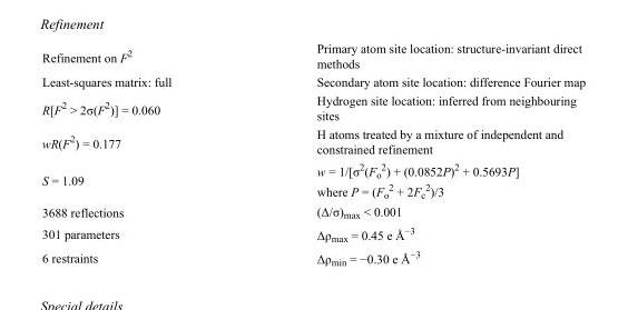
<table><tbody><tr><td>Refinement on F<sup>2</sup></td><td>Primary atom site location: structure-invariant direct methods</td></tr><tr><td>Least-squares matrix: full</td><td>Secondary atom site location: difference Fourier map</td></tr><tr><td>R[F<sup>2</sup> &gt; 2σ(F<sup>2</sup>)] = 0.060</td><td>Hydrogen site location: inferred from neighbouring sites</td></tr><tr><td>wR(F<sup>2</sup>) = 0.177</td><td>H atoms treated by a mixture of independent and constrained refinement</td></tr><tr><td>S = 1.09</td><td>w = 1/[σ<sup>2</sup>(F<sub>o</sub> <sup>2</sup>) + (0.0852P)<sup>2</sup> + 0.5693P] where P = (F<sub>o</sub> <sup>2</sup> + 2F<sub>c</sub> <sup>2</sup>)/3</td></tr><tr><td>3688 reflections</td><td>(Δ/σ)<sub>max</sub> &lt; 0.001</td></tr><tr><td>301 parameters</td><td>Δρ<sub>max</sub> = 0.45 e Å<sup>−3</sup></td></tr><tr><td>6 restraints</td><td>Δρ<sub>min</sub> = −0.30 e Å<sup>−3</sup></td></tr></tbody></table>